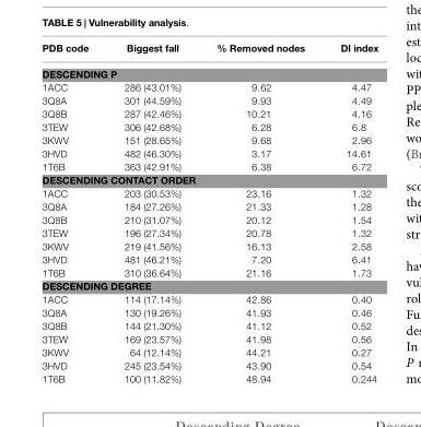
<table><thead><tr><td>PDB code</td><td>Biggest fall</td><td>% Removed nodes</td><td>DI index</td></tr></thead><tbody><tr><td colspan="4">DESCENDING P</td></tr><tr><td>1ACC</td><td>286 (43.01%)</td><td>9.62</td><td>4.47</td></tr><tr><td>3Q8A</td><td>301 (44.59%)</td><td>9.93</td><td>4.49</td></tr><tr><td>3Q8B</td><td>287 (42.46%)</td><td>10.21</td><td>4.16</td></tr><tr><td>3TEW</td><td>306 (42.68%)</td><td>6.28</td><td>6.8</td></tr><tr><td>3KWV</td><td>151 (28.65%)</td><td>9.68</td><td>2.96</td></tr><tr><td>3HVD</td><td>482 (46.30%)</td><td>3.17</td><td>14.61</td></tr><tr><td>1T6B</td><td>363 (42.91%)</td><td>6.38</td><td>6.72</td></tr><tr><td colspan="4">DESCENDING CONTACT ORDER</td></tr><tr><td>1ACC</td><td>203 (30.53%)</td><td>23.16</td><td>1.32</td></tr><tr><td>3Q8A</td><td>184 (27.26%)</td><td>21.33</td><td>1.28</td></tr><tr><td>3Q8B</td><td>210 (31.07%)</td><td>20.12</td><td>1.54</td></tr><tr><td>3TEW</td><td>196 (27.34%)</td><td>20.78</td><td>1.32</td></tr><tr><td>3KWV</td><td>219 (41.56%)</td><td>16.13</td><td>2.58</td></tr><tr><td>3HVD</td><td>481 (46.21%)</td><td>7.20</td><td>6.41</td></tr><tr><td>1T6B</td><td>310 (36.64%)</td><td>21.16</td><td>1.73</td></tr><tr><td colspan="4">DESCENDING DEGREE</td></tr><tr><td>1ACC</td><td>114 (17.14%)</td><td>42.86</td><td>0.40</td></tr><tr><td>3Q8A</td><td>130 (19.26%)</td><td>41.93</td><td>0.46</td></tr><tr><td>3Q8B</td><td>144 (21.30%)</td><td>41.12</td><td>0.52</td></tr><tr><td>3TEW</td><td>169 (23.57%)</td><td>41.98</td><td>0.56</td></tr><tr><td>3KWV</td><td>64 (12.14%)</td><td>44.21</td><td>0.27</td></tr><tr><td>3HVD</td><td>245 (23.54%)</td><td>43.90</td><td>0.54</td></tr><tr><td>1T6B</td><td>100 (11.82%)</td><td>48.94</td><td>0.244</td></tr></tbody></table>